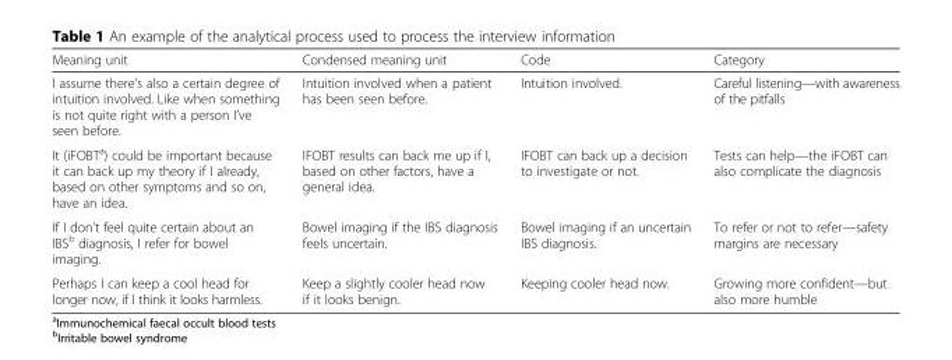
<table><thead><tr><td>Meaning unit</td><td>Condensed meaning unit</td><td>Code</td><td>Category</td></tr></thead><tbody><tr><td>I assume there’s also a certain degree of intuition involved. Like when something is not quite right with a person I’ve seen before.</td><td>Intuition involved when a patient has been seen before.</td><td>Intuition involved.</td><td>Careful listening—with awareness of the pitfalls</td></tr><tr><td>It (iFOBT<sup>a</sup>) could be important because it can back up my theory if I already, based on other symptoms and so on, have an idea.</td><td>IFOBT results can back me up if I, based on other factors, have a general idea.</td><td>IFOBT can back up a decision to investigate or not.</td><td>Tests can help—the iFOBT can also complicate the diagnosis</td></tr><tr><td>If I don&#x27;t feel quite certain about an IBS<sup>b</sup> diagnosis, I refer for bowel imaging.</td><td>Bowel imaging if the IBS diagnosis feels uncertain.</td><td>Bowel imaging if an uncertain IBS diagnosis.</td><td>To refer or not to refer—safety margins are necessary</td></tr><tr><td>Perhaps I can keep a cool head for longer now, if I think it looks harmless.</td><td>Keep a slightly cooler head now if it looks benign.</td><td>Keeping cooler head now.</td><td>Growing more confident—but also more humble</td></tr></tbody></table>